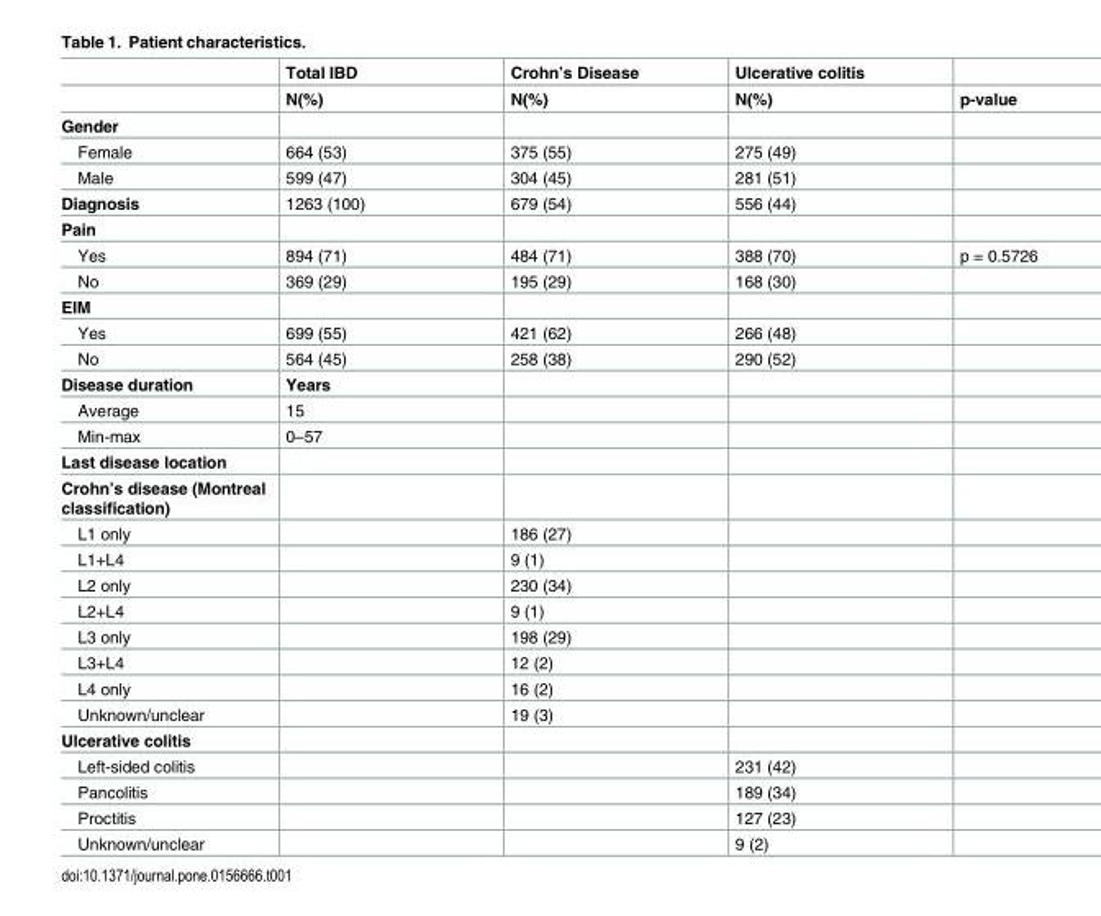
<table><thead><tr><td rowspan="2"></td><td rowspan="2">Total IBD N(%)</td><td rowspan="2">Crohn’s Disease N(%)</td><td rowspan="2">Ulcerative colitis N(%)</td><td rowspan="2">p-value</td></tr><tr></tr></thead><tbody><tr><td colspan="5">Gender</td></tr><tr><td>Female</td><td>664 (53)</td><td>375 (55)</td><td>275 (49)</td><td></td></tr><tr><td>Male</td><td>599 (47)</td><td>304 (45)</td><td>281 (51)</td><td></td></tr><tr><td>Diagnosis</td><td>1263 (100)</td><td>679 (54)</td><td>556 (44)</td><td></td></tr><tr><td colspan="5">Pain</td></tr><tr><td>Yes</td><td>894 (71)</td><td>484 (71)</td><td>388 (70)</td><td>p = 0.5726</td></tr><tr><td>No</td><td>369 (29)</td><td>195 (29)</td><td>168 (30)</td><td></td></tr><tr><td colspan="5">EIM</td></tr><tr><td>Yes</td><td>699 (55)</td><td>421 (62)</td><td>266 (48)</td><td></td></tr><tr><td>No</td><td>564 (45)</td><td>258 (38)</td><td>290 (52)</td><td></td></tr><tr><td>Disease duration</td><td>Years</td><td></td><td></td><td></td></tr><tr><td>Average</td><td>15</td><td></td><td></td><td></td></tr><tr><td>Min-max</td><td>0–57</td><td></td><td></td><td></td></tr><tr><td colspan="5">Last disease location</td></tr><tr><td colspan="5">Crohn’s disease (Montreal classification)</td></tr><tr><td>L1 only</td><td></td><td>186 (27)</td><td></td><td></td></tr><tr><td>L1+L4</td><td></td><td>9 (1)</td><td></td><td></td></tr><tr><td>L2 only</td><td></td><td>230 (34)</td><td></td><td></td></tr><tr><td>L2+L4</td><td></td><td>9 (1)</td><td></td><td></td></tr><tr><td>L3 only</td><td></td><td>198 (29)</td><td></td><td></td></tr><tr><td>L3+L4</td><td></td><td>12 (2)</td><td></td><td></td></tr><tr><td>L4 only</td><td></td><td>16 (2)</td><td></td><td></td></tr><tr><td>Unknown/unclear</td><td></td><td>19 (3)</td><td></td><td></td></tr><tr><td colspan="5">Ulcerative colitis</td></tr><tr><td>Left-sided colitis</td><td></td><td></td><td>231 (42)</td><td></td></tr><tr><td>Pancolitis</td><td></td><td></td><td>189 (34)</td><td></td></tr><tr><td>Proctitis</td><td></td><td></td><td>127 (23)</td><td></td></tr><tr><td>Unknown/unclear</td><td></td><td></td><td>9 (2)</td><td></td></tr></tbody></table>